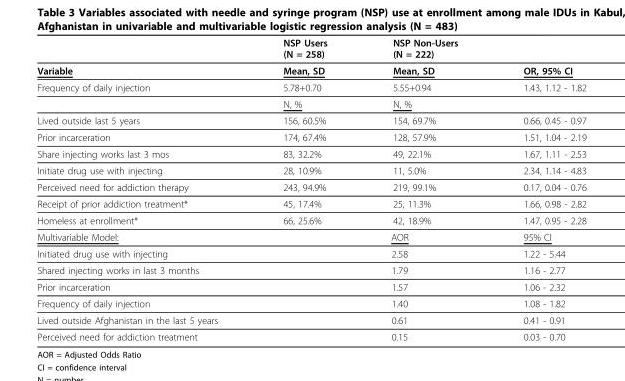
<table><thead><tr><td></td><td>NSP Users (N = 258)</td><td>NSP Non-Users (N = 222)</td><td></td></tr></thead><tbody><tr><td>Variable</td><td>Mean, SD</td><td>Mean, SD</td><td>OR, 95% CI</td></tr><tr><td rowspan="2">Frequency of daily injection</td><td>5.78+0.70</td><td>5.55+0.94</td><td>1.43, 1.12 - 1.82</td></tr><tr><td>N, %</td><td>N, %</td><td></td></tr><tr><td>Lived outside last 5 years</td><td>156, 60.5%</td><td>154, 69.7%</td><td>0.66, 0.45 - 0.97</td></tr><tr><td>Prior incarceration</td><td>174, 67.4%</td><td>128, 57.9%</td><td>1.51, 1.04 - 2.19</td></tr><tr><td>Share injecting works last 3 mos</td><td>83, 32.2%</td><td>49, 22.1%</td><td>1.67, 1.11 - 2.53</td></tr><tr><td>Initiate drug use with injecting</td><td>28, 10.9%</td><td>11, 5.0%</td><td>2.34, 1.14 - 4.83</td></tr><tr><td>Perceived need for addiction therapy</td><td>243, 94.9%</td><td>219, 99.1%</td><td>0.17, 0.04 - 0.76</td></tr><tr><td>Receipt of prior addiction treatment*</td><td>45, 17.4%</td><td>25, 11.3%</td><td>1.66, 0.98 - 2.82</td></tr><tr><td>Homeless at enrollment*</td><td>66, 25.6%</td><td>42, 18.9%</td><td>1.47, 0.95 - 2.28</td></tr><tr><td>Multivariable Model:</td><td colspan="2">AOR</td><td>95% CI</td></tr><tr><td>Initiated drug use with injecting</td><td colspan="2">2.58</td><td>1.22 - 5.44</td></tr><tr><td>Shared injecting works in last 3 months</td><td colspan="2">1.79</td><td>1.16 - 2.77</td></tr><tr><td>Prior incarceration</td><td colspan="2">1.57</td><td>1.06 - 2.32</td></tr><tr><td>Frequency of daily injection</td><td colspan="2">1.40</td><td>1.08 - 1.82</td></tr><tr><td>Lived outside Afghanistan in the last 5 years</td><td colspan="2">0.61</td><td>0.41 - 0.91</td></tr><tr><td>Perceived need for addiction treatment</td><td colspan="2">0.15</td><td>0.03 - 0.70</td></tr></tbody></table>